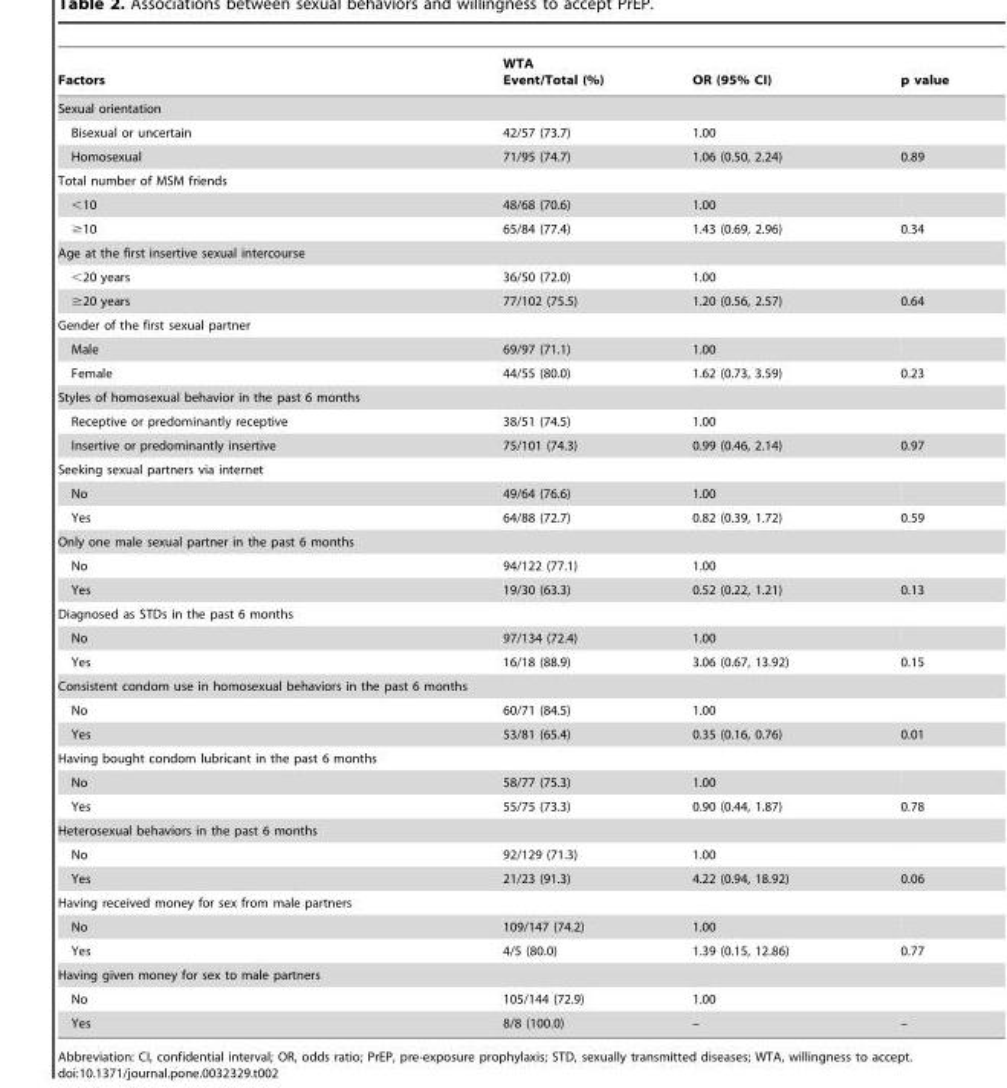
<table><thead><tr><td>Factors</td><td>WTA Event/Total (%)</td><td>OR (95% CI)</td><td>p value</td></tr></thead><tbody><tr><td colspan="4">Sexual orientation</td></tr><tr><td>Bisexual or uncertain</td><td>42/57 (73.7)</td><td>1.00</td><td></td></tr><tr><td>Homosexual</td><td>71/95 (74.7)</td><td>1.06 (0.50, 2.24)</td><td>0.89</td></tr><tr><td colspan="4">Total number of MSM friends</td></tr><tr><td>&lt;10</td><td>48/68 (70.6)</td><td>1.00</td><td></td></tr><tr><td>≥10</td><td>65/84 (77.4)</td><td>1.43 (0.69, 2.96)</td><td>0.34</td></tr><tr><td colspan="4">Age at the first insertive sexual intercourse</td></tr><tr><td>&lt;20 years</td><td>36/50 (72.0)</td><td>1.00</td><td></td></tr><tr><td>≥20 years</td><td>77/102 (75.5)</td><td>1.20 (0.56, 2.57)</td><td>0.64</td></tr><tr><td colspan="4">Gender of the first sexual partner</td></tr><tr><td>Male</td><td>69/97 (71.1)</td><td>1.00</td><td></td></tr><tr><td>Female</td><td>44/55 (80.0)</td><td>1.62 (0.73, 3.59)</td><td>0.23</td></tr><tr><td colspan="4">Styles of homosexual behavior in the past 6 months</td></tr><tr><td>Receptive or predominantly receptive</td><td>38/51 (74.5)</td><td>1.00</td><td></td></tr><tr><td>Insertive or predominantly insertive</td><td>75/101 (74.3)</td><td>0.99 (0.46, 2.14)</td><td>0.97</td></tr><tr><td colspan="4">Seeking sexual partners via internet</td></tr><tr><td>No</td><td>49/64 (76.6)</td><td>1.00</td><td></td></tr><tr><td>Yes</td><td>64/88 (72.7)</td><td>0.82 (0.39, 1.72)</td><td>0.59</td></tr><tr><td colspan="4">Only one male sexual partner in the past 6 months</td></tr><tr><td>No</td><td>94/122 (77.1)</td><td>1.00</td><td></td></tr><tr><td>Yes</td><td>19/30 (63.3)</td><td>0.52 (0.22, 1.21)</td><td>0.13</td></tr><tr><td colspan="4">Diagnosed as STDs in the past 6 months</td></tr><tr><td>No</td><td>97/134 (72.4)</td><td>1.00</td><td></td></tr><tr><td>Yes</td><td>16/18 (88.9)</td><td>3.06 (0.67, 13.92)</td><td>0.15</td></tr><tr><td colspan="4">Consistent condom use in homosexual behaviors in the past 6 months</td></tr><tr><td>No</td><td>60/71 (84.5)</td><td>1.00</td><td></td></tr><tr><td>Yes</td><td>53/81 (65.4)</td><td>0.35 (0.16, 0.76)</td><td>0.01</td></tr><tr><td colspan="4">Having bought condom lubricant in the past 6 months</td></tr><tr><td>No</td><td>58/77 (75.3)</td><td>1.00</td><td></td></tr><tr><td>Yes</td><td>55/75 (73.3)</td><td>0.90 (0.44, 1.87)</td><td>0.78</td></tr><tr><td colspan="4">Heterosexual behaviors in the past 6 months</td></tr><tr><td>No</td><td>92/129 (71.3)</td><td>1.00</td><td></td></tr><tr><td>Yes</td><td>21/23 (91.3)</td><td>4.22 (0.94, 18.92)</td><td>0.06</td></tr><tr><td colspan="4">Having received money for sex from male partners</td></tr><tr><td>No</td><td>109/147 (74.2)</td><td>1.00</td><td></td></tr><tr><td>Yes</td><td>4/5 (80.0)</td><td>1.39 (0.15, 12.86)</td><td>0.77</td></tr><tr><td colspan="4">Having given money for sex to male partners</td></tr><tr><td>No</td><td>105/144 (72.9)</td><td>1.00</td><td></td></tr><tr><td>Yes</td><td>8/8 (100.0)</td><td>–</td><td>–</td></tr></tbody></table>